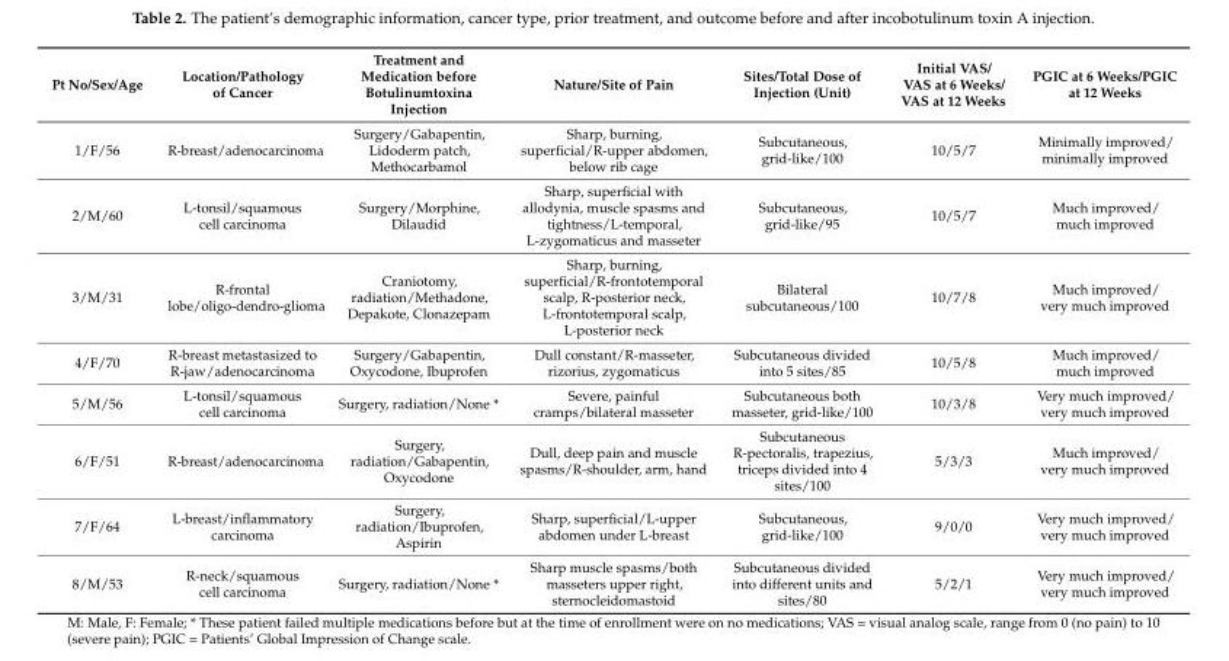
<table><thead><tr><td>Pt No/Sex/Age</td><td>Location/Pathology of Cancer</td><td>Treatment and Medication before Botulinumtoxina Injection</td><td>Nature/Site of Pain</td><td>Sites/Total Dose of Injection (Unit)</td><td>Initial VAS/ VAS at 6 Weeks/ VAS at 12 Weeks</td><td>PGIC at 6 Weeks/PGIC at 12 Weeks</td></tr></thead><tbody><tr><td>1/F/56</td><td>R-breast/adenocarcinoma</td><td>Surgery/Gabapentin, Lidoderm patch, Methocarbamol</td><td>Sharp, burning, superficial/R-upper abdomen, below rib cage</td><td>Subcutaneous, grid-like/100</td><td>10/5/7</td><td>Minimally improved/ minimally improved</td></tr><tr><td>2/M/60</td><td>L-tonsil/squamous cell carcinoma</td><td>Surgery/Morphine, Dilaudid</td><td>Sharp, superficial with allodynia, muscle spasms and tightness/L-temporal, L-zygomaticus and masseter</td><td>Subcutaneous, grid-like/95</td><td>10/5/7</td><td>Much improved/ much improved</td></tr><tr><td>3/M/31</td><td>R-frontal lobe/oligo-dendro-glioma</td><td>Craniotomy, radiation/Methadone, Depakote, Clonazepam</td><td>Sharp, burning, superficial/R-frontotemporal scalp, R-posterior neck, L-frontotemporal scalp, L-posterior neck</td><td>Bilateral subcutaneous/100</td><td>10/7/8</td><td>Much improved/ very much improved</td></tr><tr><td>4/F/70</td><td>R-breast metastasized to R-jaw/adenocarcinoma</td><td>Surgery/Gabapentin, Oxycodone, Ibuprofen</td><td>Dull constant/R-masseter, rizorius, zygomaticus</td><td>Subcutaneous divided into 5 sites/85</td><td>10/5/8</td><td>Much improved/ much improved</td></tr><tr><td>5/M/56</td><td>L-tonsil/squamous cell carcinoma</td><td>Surgery, radiation/None *</td><td>Severe, painful cramps/bilateral masseter</td><td>Subcutaneous both masseter, grid-like/100</td><td>10/3/8</td><td>Very much improved/ very much improved</td></tr><tr><td>6/F/51</td><td>R-breast/adenocarcinoma</td><td>Surgery, radiation/Gabapentin, Oxycodone</td><td>Dull, deep pain and muscle spasms/R-shoulder, arm, hand</td><td>Subcutaneous R-pectoralis, trapezius, triceps divided into 4 sites/100</td><td>5/3/3</td><td>Much improved/ very much improved</td></tr><tr><td>7/F/64</td><td>L-breast/inflammatory carcinoma</td><td>Surgery, radiation/Ibuprofen, Aspirin</td><td>Sharp, superficial/L-upper abdomen under L-breast</td><td>Subcutaneous, grid-like/100</td><td>9/0/0</td><td>Very much improved/ very much improved</td></tr><tr><td>8/M/53</td><td>R-neck/squamous cell carcinoma</td><td>Surgery, radiation/None *</td><td>Sharp muscle spasms/both masseters upper right, sternocleidomastoid</td><td>Subcutaneous divided into different units and sites/80</td><td>5/2/1</td><td>Very much improved/ very much improved</td></tr></tbody></table>